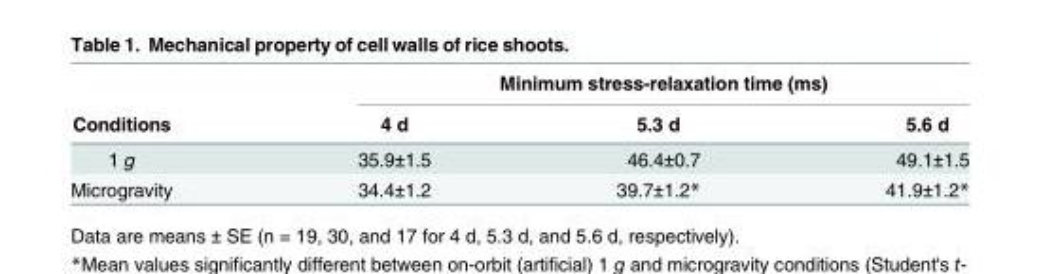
<table><thead><tr><td rowspan="2">Conditions</td><td colspan="3">Minimum stress-relaxation time (ms)</td></tr><tr><td>4 d</td><td>5.3 d</td><td>5.6 d</td></tr></thead><tbody><tr><td>1 g</td><td>35.9±1.5</td><td>46.4±0.7</td><td>49.1±1.5</td></tr><tr><td>Microgravity</td><td>34.4±1.2</td><td>39.7±1.2*</td><td>41.9±1.2*</td></tr></tbody></table>